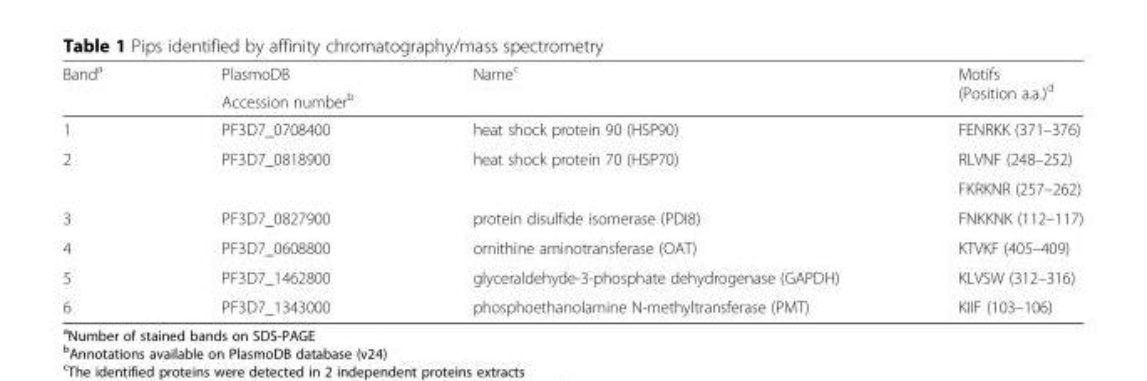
<table><thead><tr><td rowspan="2">Band<sup>a</sup></td><td rowspan="2">PlasmoDB Accession number<sup>b</sup></td><td rowspan="2">Name<sup>c</sup></td><td rowspan="2">Motifs (Position a.a.)<sup>d</sup></td></tr><tr></tr></thead><tbody><tr><td>1</td><td>PF3D7_0708400</td><td>heat shock protein 90 (HSP90)</td><td>FENRKK (371–376)</td></tr><tr><td rowspan="2">2</td><td rowspan="2">PF3D7_0818900</td><td rowspan="2">heat shock protein 70 (HSP70)</td><td>RLVNF (248–252)</td></tr><tr><td>FKRKNR (257–262)</td></tr><tr><td>3</td><td>PF3D7_0827900</td><td>protein disulfide isomerase (PDI8)</td><td>FNKKNK (112–117)</td></tr><tr><td>4</td><td>PF3D7_0608800</td><td>ornithine aminotransferase (OAT)</td><td>KTVKF (405–409)</td></tr><tr><td>5</td><td>PF3D7_1462800</td><td>glyceraldehyde-3-phosphate dehydrogenase (GAPDH)</td><td>KLVSW (312–316)</td></tr><tr><td>6</td><td>PF3D7_1343000</td><td>phosphoethanolamine N-methyltransferase (PMT)</td><td>KIIF (103–106)</td></tr></tbody></table>